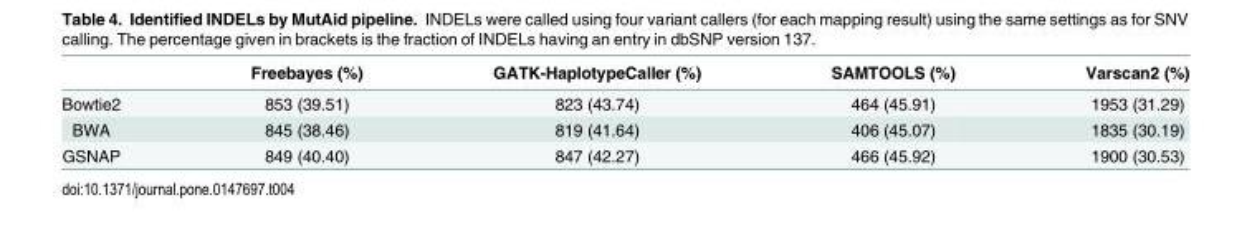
<table><thead><tr><td></td><td>Freebayes (%)</td><td>GATK-HaplotypeCaller (%)</td><td>SAMTOOLS (%)</td><td>Varscan2 (%)</td></tr></thead><tbody><tr><td>Bowtie2</td><td>853 (39.51)</td><td>823 (43.74)</td><td>464 (45.91)</td><td>1953 (31.29)</td></tr><tr><td>BWA</td><td>845 (38.46)</td><td>819 (41.64)</td><td>406 (45.07)</td><td>1835 (30.19)</td></tr><tr><td>GSNAP</td><td>849 (40.40)</td><td>847 (42.27)</td><td>466 (45.92)</td><td>1900 (30.53)</td></tr></tbody></table>